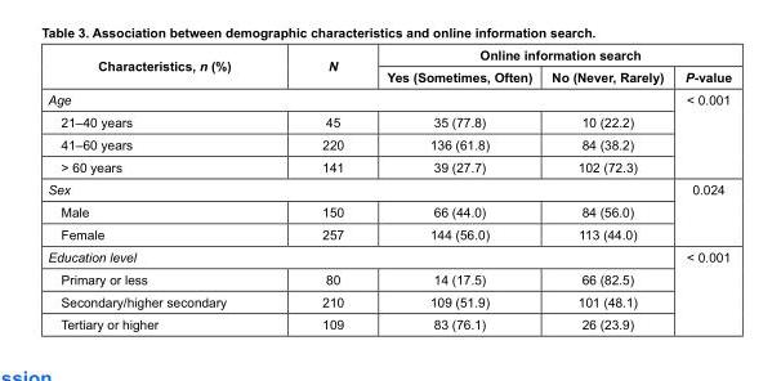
<table><thead><tr><td rowspan="2">Characteristics, n (%)</td><td rowspan="2">N</td><td colspan="3">Online information search</td></tr><tr><td>Yes (Sometimes, Often)</td><td>No (Never, Rarely)</td><td>P-value</td></tr></thead><tbody><tr><td colspan="4">Age</td><td rowspan="4">&lt; 0.001</td></tr><tr><td>21–40 years</td><td>45</td><td>35 (77.8)</td><td>10 (22.2)</td></tr><tr><td>41–60 years</td><td>220</td><td>136 (61.8)</td><td>84 (38.2)</td></tr><tr><td>&gt; 60 years</td><td>141</td><td>39 (27.7)</td><td>102 (72.3)</td></tr><tr><td colspan="4">Sex</td><td rowspan="3">0.024</td></tr><tr><td>Male</td><td>150</td><td>66 (44.0)</td><td>84 (56.0)</td></tr><tr><td>Female</td><td>257</td><td>144 (56.0)</td><td>113 (44.0)</td></tr><tr><td colspan="4">Education level</td><td rowspan="4">&lt; 0.001</td></tr><tr><td>Primary or less</td><td>80</td><td>14 (17.5)</td><td>66 (82.5)</td></tr><tr><td>Secondary/higher secondary</td><td>210</td><td>109 (51.9)</td><td>101 (48.1)</td></tr><tr><td>Tertiary or higher</td><td>109</td><td>83 (76.1)</td><td>26 (23.9)</td></tr></tbody></table>